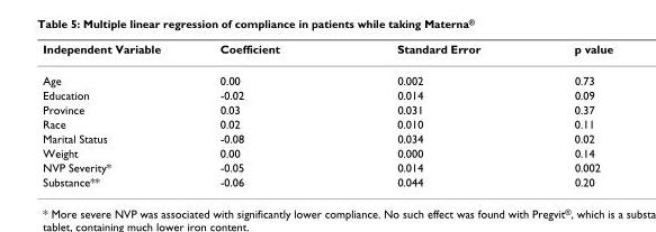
<table><thead><tr><td>Independent Variable</td><td>Coefficient</td><td>Standard Error</td><td>p value</td></tr></thead><tbody><tr><td>Age</td><td>0.00</td><td>0.002</td><td>0.73</td></tr><tr><td>Education</td><td>-0.02</td><td>0.014</td><td>0.09</td></tr><tr><td>Province</td><td>0.03</td><td>0.031</td><td>0.37</td></tr><tr><td>Race</td><td>0.02</td><td>0.010</td><td>0.11</td></tr><tr><td>Marital Status</td><td>-0.08</td><td>0.034</td><td>0.02</td></tr><tr><td>Weight</td><td>0.00</td><td>0.000</td><td>0.14</td></tr><tr><td>NVP Severity*</td><td>-0.05</td><td>0.014</td><td>0.002</td></tr><tr><td>Substance**</td><td>-0.06</td><td>0.044</td><td>0.20</td></tr></tbody></table>